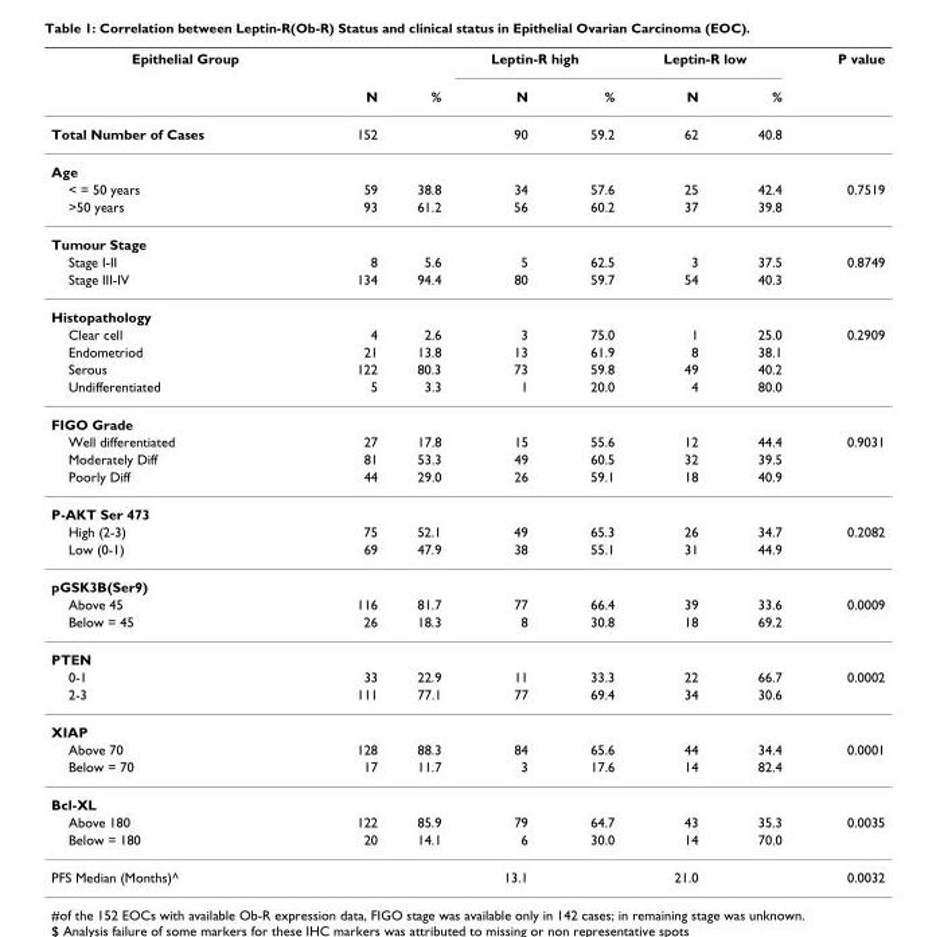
<table><thead><tr><td rowspan="2">Epithelial Group</td><td rowspan="2">N</td><td rowspan="2">%</td><td colspan="2">Leptin-R high</td><td colspan="2">Leptin-R low</td><td rowspan="2">P value</td></tr><tr><td>N</td><td>%</td><td>N</td><td>%</td></tr></thead><tbody><tr><td>Total Number of Cases</td><td>152</td><td></td><td>90</td><td>59.2</td><td>62</td><td>40.8</td><td></td></tr><tr><td colspan="8">Age</td></tr><tr><td>&lt; = 50 years</td><td>59</td><td>38.8</td><td>34</td><td>57.6</td><td>25</td><td>42.4</td><td>0.7519</td></tr><tr><td>&gt;50 years</td><td>93</td><td>61.2</td><td>56</td><td>60.2</td><td>37</td><td>39.8</td><td></td></tr><tr><td colspan="8">Tumour Stage</td></tr><tr><td>Stage I-II</td><td>8</td><td>5.6</td><td>5</td><td>62.5</td><td>3</td><td>37.5</td><td>0.8749</td></tr><tr><td>Stage III-IV</td><td>134</td><td>94.4</td><td>80</td><td>59.7</td><td>54</td><td>40.3</td><td></td></tr><tr><td colspan="8">Histopathology</td></tr><tr><td>Clear cell</td><td>4</td><td>2.6</td><td>3</td><td>75.0</td><td>1</td><td>25.0</td><td>0.2909</td></tr><tr><td>Endometriod</td><td>21</td><td>13.8</td><td>13</td><td>61.9</td><td>8</td><td>38.1</td><td></td></tr><tr><td>Serous</td><td>122</td><td>80.3</td><td>73</td><td>59.8</td><td>49</td><td>40.2</td><td></td></tr><tr><td>Undifferentiated</td><td>5</td><td>3.3</td><td>1</td><td>20.0</td><td>4</td><td>80.0</td><td></td></tr><tr><td colspan="8">FIGO Grade</td></tr><tr><td>Well differentiated</td><td>27</td><td>17.8</td><td>15</td><td>55.6</td><td>12</td><td>44.4</td><td>0.9031</td></tr><tr><td>Moderately Diff</td><td>81</td><td>53.3</td><td>49</td><td>60.5</td><td>32</td><td>39.5</td><td></td></tr><tr><td>Poorly Diff</td><td>44</td><td>29.0</td><td>26</td><td>59.1</td><td>18</td><td>40.9</td><td></td></tr><tr><td colspan="8">P-AKT Ser 473</td></tr><tr><td>High (2-3)</td><td>75</td><td>52.1</td><td>49</td><td>65.3</td><td>26</td><td>34.7</td><td>0.2082</td></tr><tr><td>Low (0-1)</td><td>69</td><td>47.9</td><td>38</td><td>55.1</td><td>31</td><td>44.9</td><td></td></tr><tr><td colspan="8">pGSK3B(Ser9)</td></tr><tr><td>Above 45</td><td>116</td><td>81.7</td><td>77</td><td>66.4</td><td>39</td><td>33.6</td><td>0.0009</td></tr><tr><td>Below = 45</td><td>26</td><td>18.3</td><td>8</td><td>30.8</td><td>18</td><td>69.2</td><td></td></tr><tr><td colspan="8">PTEN</td></tr><tr><td>0-1</td><td>33</td><td>22.9</td><td>11</td><td>33.3</td><td>22</td><td>66.7</td><td>0.0002</td></tr><tr><td>2-3</td><td>111</td><td>77.1</td><td>77</td><td>69.4</td><td>34</td><td>30.6</td><td></td></tr><tr><td colspan="8">XIAP</td></tr><tr><td>Above 70</td><td>128</td><td>88.3</td><td>84</td><td>65.6</td><td>44</td><td>34.4</td><td>0.0001</td></tr><tr><td>Below = 70</td><td>17</td><td>11.7</td><td>3</td><td>17.6</td><td>14</td><td>82.4</td><td></td></tr><tr><td colspan="8">Bcl-XL</td></tr><tr><td>Above 180</td><td>122</td><td>85.9</td><td>79</td><td>64.7</td><td>43</td><td>35.3</td><td>0.0035</td></tr><tr><td>Below = 180</td><td>20</td><td>14.1</td><td>6</td><td>30.0</td><td>14</td><td>70.0</td><td></td></tr><tr><td>PFS Median (Months)^</td><td></td><td></td><td>13.1</td><td></td><td>21.0</td><td></td><td>0.0032</td></tr></tbody></table>